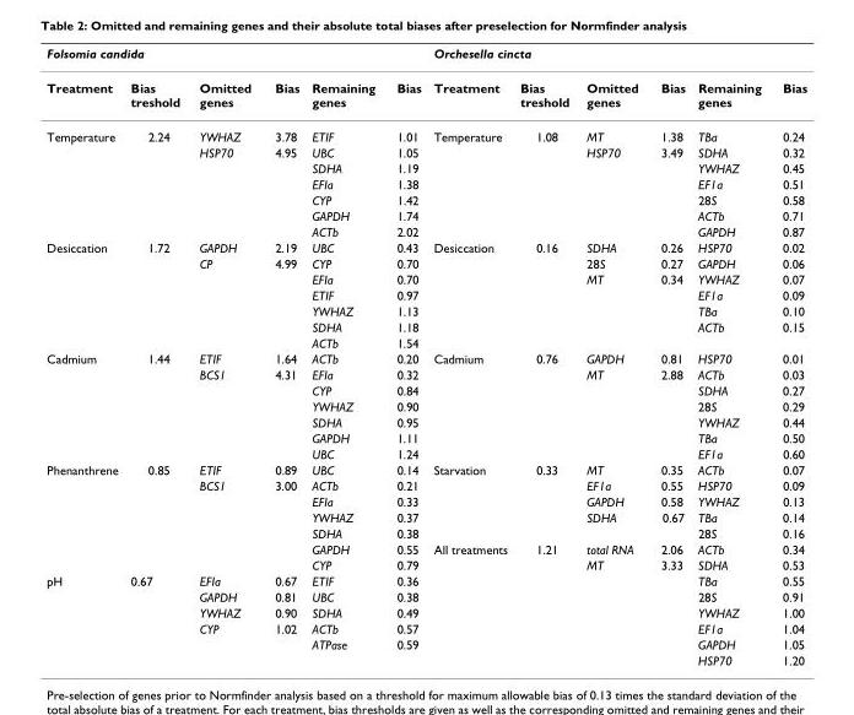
<table><thead><tr><td colspan="6">Folsomia candida</td><td colspan="6">Orchesella cincta</td></tr><tr><td>Treatment</td><td>Bias treshold</td><td>Omitted genes</td><td>Bias</td><td>Remaining genes</td><td>Bias</td><td>Treatment</td><td>Bias treshold</td><td>Omitted genes</td><td>Bias</td><td>Remaining genes</td><td>Bias</td></tr></thead><tbody><tr><td rowspan="7">Temperature</td><td>2.24</td><td>YWHAZ</td><td>3.78</td><td>ETIF</td><td>1.01</td><td>Temperature</td><td>1.08</td><td>MT</td><td>1.38</td><td>TBa</td><td>0.24</td></tr><tr><td></td><td>HSP70</td><td>4.95</td><td>UBC</td><td>1.05</td><td></td><td></td><td>HSP70</td><td>3.49</td><td>SDHA</td><td>0.32</td></tr><tr><td></td><td></td><td></td><td>SDHA</td><td>1.19</td><td></td><td></td><td></td><td></td><td>YWHAZ</td><td>0.45</td></tr><tr><td></td><td></td><td></td><td>EFIa</td><td>1.38</td><td></td><td></td><td></td><td></td><td>EF1a</td><td>0.51</td></tr><tr><td></td><td></td><td></td><td>CYP</td><td>1.42</td><td></td><td></td><td></td><td></td><td>28S</td><td>0.58</td></tr><tr><td></td><td></td><td></td><td>GAPDH</td><td>1.74</td><td></td><td></td><td></td><td></td><td>ACTb</td><td>0.71</td></tr><tr><td></td><td></td><td></td><td>ACTb</td><td>2.02</td><td></td><td></td><td></td><td></td><td>GAPDH</td><td>0.87</td></tr><tr><td rowspan="7">Desiccation</td><td>1.72</td><td>GAPDH</td><td>2.19</td><td>UBC</td><td>0.43</td><td>Desiccation</td><td>0.16</td><td>SDHA</td><td>0.26</td><td>HSP70</td><td>0.02</td></tr><tr><td></td><td>CP</td><td>4.99</td><td>CYP</td><td>0.70</td><td></td><td></td><td>28S</td><td>0.27</td><td>GAPDH</td><td>0.06</td></tr><tr><td></td><td></td><td></td><td>EFIa</td><td>0.70</td><td></td><td></td><td>MT</td><td>0.34</td><td>YWHAZ</td><td>0.07</td></tr><tr><td></td><td></td><td></td><td>ETIF</td><td>0.97</td><td></td><td></td><td></td><td></td><td>EF1a</td><td>0.09</td></tr><tr><td></td><td></td><td></td><td>YWHAZ</td><td>1.13</td><td></td><td></td><td></td><td></td><td>TBa</td><td>0.10</td></tr><tr><td></td><td></td><td></td><td>SDHA</td><td>1.18</td><td></td><td></td><td></td><td></td><td>ACTb</td><td>0.15</td></tr><tr><td></td><td></td><td></td><td>ACTb</td><td>1.54</td><td></td><td></td><td></td><td></td><td></td><td></td></tr><tr><td rowspan="7">Cadmium</td><td>1.44</td><td>ETIF</td><td>1.64</td><td>ACTb</td><td>0.20</td><td>Cadmium</td><td>0.76</td><td>GAPDH</td><td>0.81</td><td>HSP70</td><td>0.01</td></tr><tr><td></td><td>BCS1</td><td>4.31</td><td>EFIa</td><td>0.32</td><td></td><td></td><td>MT</td><td>2.88</td><td>ACTb</td><td>0.03</td></tr><tr><td></td><td></td><td></td><td>CYP</td><td>0.84</td><td></td><td></td><td></td><td></td><td>SDHA</td><td>0.27</td></tr><tr><td></td><td></td><td></td><td>YWHAZ</td><td>0.90</td><td></td><td></td><td></td><td></td><td>28S</td><td>0.29</td></tr><tr><td></td><td></td><td></td><td>SDHA</td><td>0.95</td><td></td><td></td><td></td><td></td><td>YWHAZ</td><td>0.44</td></tr><tr><td></td><td></td><td></td><td>GAPDH</td><td>1.11</td><td></td><td></td><td></td><td></td><td>TBa</td><td>0.50</td></tr><tr><td></td><td></td><td></td><td>UBC</td><td>1.24</td><td></td><td></td><td></td><td></td><td>EF1a</td><td>0.60</td></tr><tr><td rowspan="7">Phenanthrene</td><td>0.85</td><td>ETIF</td><td>0.89</td><td>UBC</td><td>0.14</td><td>Starvation</td><td>0.33</td><td>MT</td><td>0.35</td><td>ACTb</td><td>0.07</td></tr><tr><td></td><td>BCS1</td><td>3.00</td><td>ACTb</td><td>0.21</td><td></td><td></td><td>EF1a</td><td>0.55</td><td>HSP70</td><td>0.09</td></tr><tr><td></td><td></td><td></td><td>EFIa</td><td>0.33</td><td></td><td></td><td>GAPDH</td><td>0.58</td><td>YWHAZ</td><td>0.13</td></tr><tr><td></td><td></td><td></td><td>YWHAZ</td><td>0.37</td><td></td><td></td><td>SDHA</td><td>0.67</td><td>TBa</td><td>0.14</td></tr><tr><td></td><td></td><td></td><td>SDHA</td><td>0.38</td><td></td><td></td><td></td><td></td><td>28S</td><td>0.16</td></tr><tr><td></td><td></td><td></td><td>GAPDH</td><td>0.55</td><td>All treatments</td><td>1.21</td><td>total RNA</td><td>2.06</td><td>ACTb</td><td>0.34</td></tr><tr><td></td><td></td><td></td><td>CYP</td><td>0.79</td><td></td><td></td><td>MT</td><td>3.33</td><td>SDHA</td><td>0.53</td></tr><tr><td rowspan="6">pH</td><td>0.67</td><td>EFIa</td><td>0.67</td><td>ETIF</td><td>0.36</td><td></td><td></td><td></td><td></td><td>TBa</td><td>0.55</td></tr><tr><td></td><td>GAPDH</td><td>0.81</td><td>UBC</td><td>0.38</td><td></td><td></td><td></td><td></td><td>28S</td><td>0.91</td></tr><tr><td></td><td>YWHAZ</td><td>0.90</td><td>SDHA</td><td>0.49</td><td></td><td></td><td></td><td></td><td>YWHAZ</td><td>1.00</td></tr><tr><td></td><td>CYP</td><td>1.02</td><td>ACTb</td><td>0.57</td><td></td><td></td><td></td><td></td><td>EF1a</td><td>1.04</td></tr><tr><td></td><td></td><td></td><td>ATPase</td><td>0.59</td><td></td><td></td><td></td><td></td><td>GAPDH</td><td>1.05</td></tr><tr><td></td><td></td><td></td><td></td><td></td><td></td><td></td><td></td><td></td><td>HSP70</td><td>1.20</td></tr></tbody></table>